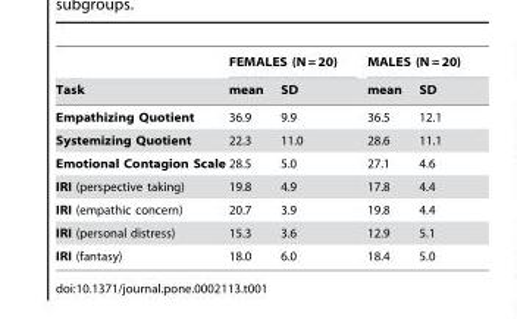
<table><thead><tr><td rowspan="2">Task</td><td colspan="2">FEMALES (N = 20)</td><td colspan="2">MALES (N = 20)</td></tr><tr><td>mean</td><td>SD</td><td>mean</td><td>SD</td></tr></thead><tbody><tr><td>Empathizing Quotient</td><td>36.9</td><td>9.9</td><td>36.5</td><td>12.1</td></tr><tr><td>Systemizing Quotient</td><td>22.3</td><td>11.0</td><td>28.6</td><td>11.1</td></tr><tr><td>Emotional Contagion Scale</td><td>28.5</td><td>5.0</td><td>27.1</td><td>4.6</td></tr><tr><td>IRI (perspective taking)</td><td>19.8</td><td>4.9</td><td>17.8</td><td>4.4</td></tr><tr><td>IRI (empathic concern)</td><td>20.7</td><td>3.9</td><td>19.8</td><td>4.4</td></tr><tr><td>IRI (personal distress)</td><td>15.3</td><td>3.6</td><td>12.9</td><td>5.1</td></tr><tr><td>IRI (fantasy)</td><td>18.0</td><td>6.0</td><td>18.4</td><td>5.0</td></tr></tbody></table>